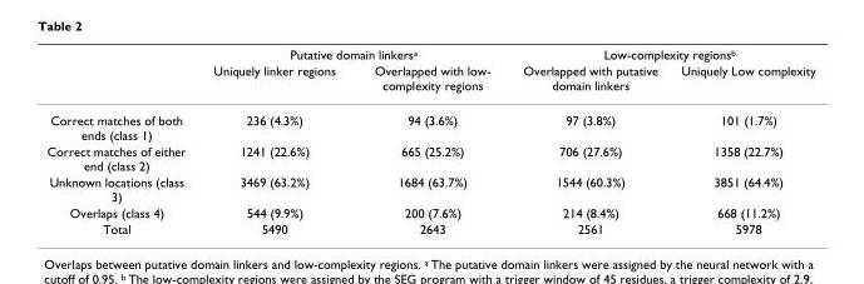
<table><thead><tr><td rowspan="2"></td><td colspan="2">Putative domain linkersa</td><td colspan="2">Low-complexity regionsb</td></tr><tr><td>Uniquely linker regions</td><td>Overlapped with low- complexity regions</td><td>Overlapped with putative domain linkers</td><td>Uniquely Low complexity</td></tr></thead><tbody><tr><td>Correct matches of both ends (class 1)</td><td>236 (4.3%)</td><td>94 (3.6%)</td><td>97 (3.8%)</td><td>101 (1.7%)</td></tr><tr><td>Correct matches of either end (class 2)</td><td>1241 (22.6%)</td><td>665 (25.2%)</td><td>706 (27.6%)</td><td>1358 (22.7%)</td></tr><tr><td>Unknown locations (class 3)</td><td>3469 (63.2%)</td><td>1684 (63.7%)</td><td>1544 (60.3%)</td><td>3851 (64.4%)</td></tr><tr><td>Overlaps (class 4)</td><td>544 (9.9%)</td><td>200 (7.6%)</td><td>214 (8.4%)</td><td>668 (11.2%)</td></tr><tr><td>Total</td><td>5490</td><td>2643</td><td>2561</td><td>5978</td></tr></tbody></table>